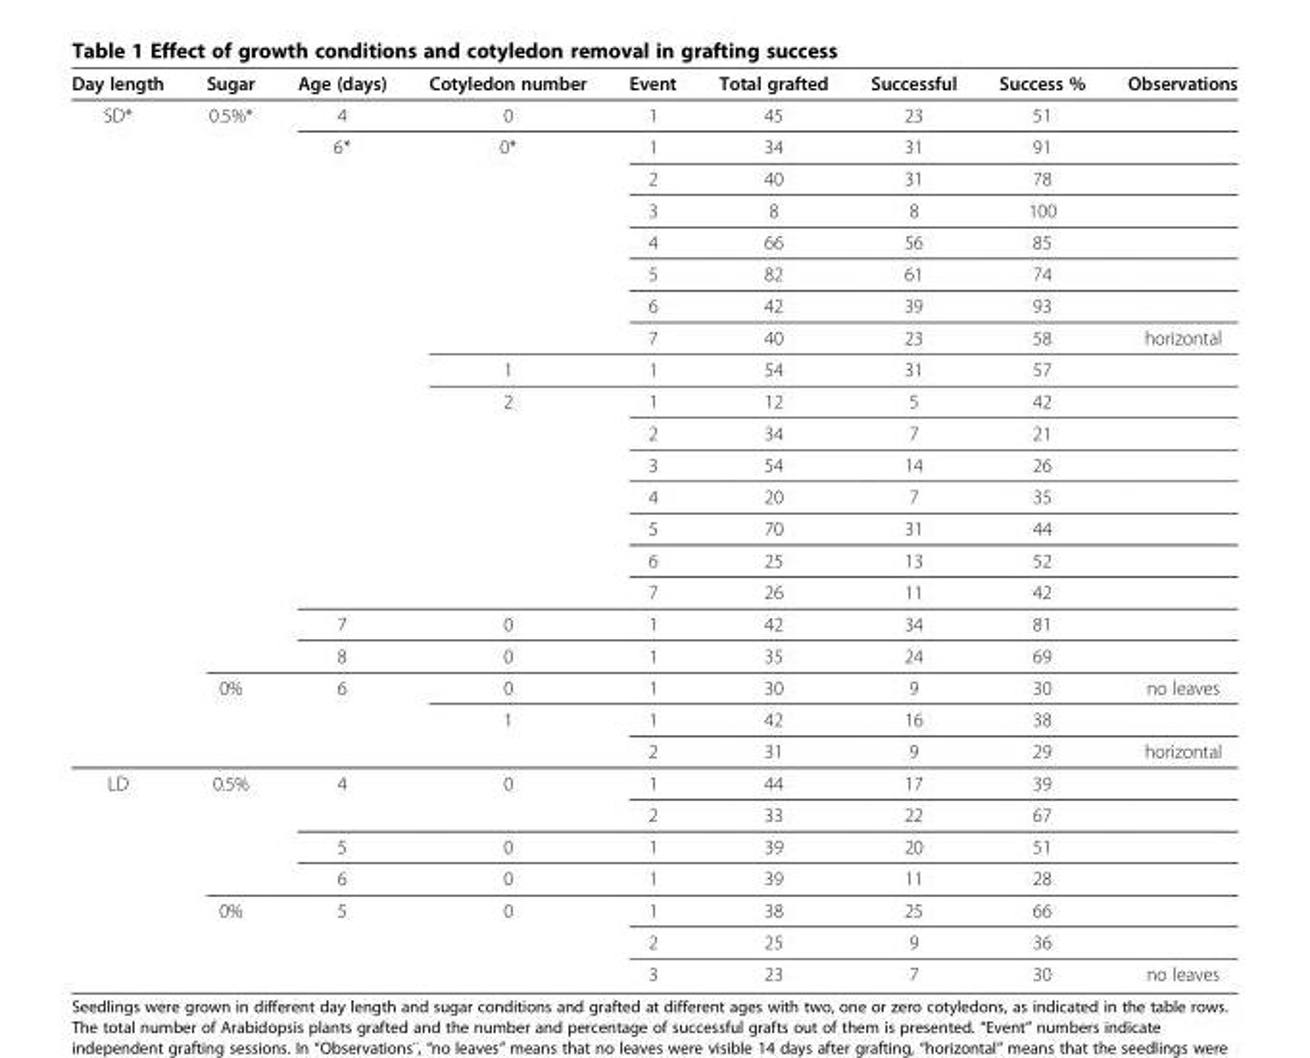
<table><thead><tr><td>Day length</td><td>Sugar</td><td>Age (days)</td><td>Cotyledon number</td><td>Event</td><td>Total grafted</td><td>Successful</td><td>Success %</td><td>Observations</td></tr></thead><tbody><tr><td rowspan="21">SD*</td><td rowspan="18">0.5%*</td><td>4</td><td>0</td><td>1</td><td>45</td><td>23</td><td>51</td><td></td></tr><tr><td rowspan="15">6*</td><td rowspan="7">0*</td><td>1</td><td>34</td><td>31</td><td>91</td><td></td></tr><tr><td>2</td><td>40</td><td>31</td><td>78</td><td></td></tr><tr><td>3</td><td>8</td><td>8</td><td>100</td><td></td></tr><tr><td>4</td><td>66</td><td>56</td><td>85</td><td></td></tr><tr><td>5</td><td>82</td><td>61</td><td>74</td><td></td></tr><tr><td>6</td><td>42</td><td>39</td><td>93</td><td></td></tr><tr><td>7</td><td>40</td><td>23</td><td>58</td><td>horizontal</td></tr><tr><td>1</td><td>1</td><td>54</td><td>31</td><td>57</td><td></td></tr><tr><td rowspan="7">2</td><td>1</td><td>12</td><td>5</td><td>42</td><td></td></tr><tr><td>2</td><td>34</td><td>7</td><td>21</td><td></td></tr><tr><td>3</td><td>54</td><td>14</td><td>26</td><td></td></tr><tr><td>4</td><td>20</td><td>7</td><td>35</td><td></td></tr><tr><td>5</td><td>70</td><td>31</td><td>44</td><td></td></tr><tr><td>6</td><td>25</td><td>13</td><td>52</td><td></td></tr><tr><td>7</td><td>26</td><td>11</td><td>42</td><td></td></tr><tr><td>7</td><td>0</td><td>1</td><td>42</td><td>34</td><td>81</td><td></td></tr><tr><td>8</td><td>0</td><td>1</td><td>35</td><td>24</td><td>69</td><td></td></tr><tr><td rowspan="3">0%</td><td rowspan="3">6</td><td>0</td><td>1</td><td>30</td><td>9</td><td>30</td><td>no leaves</td></tr><tr><td rowspan="2">1</td><td>1</td><td>42</td><td>16</td><td>38</td><td></td></tr><tr><td>2</td><td>31</td><td>9</td><td>29</td><td>horizontal</td></tr><tr><td rowspan="7">LD</td><td rowspan="4">0.5%</td><td rowspan="2">4</td><td rowspan="2">0</td><td>1</td><td>44</td><td>17</td><td>39</td><td></td></tr><tr><td>2</td><td>33</td><td>22</td><td>67</td><td></td></tr><tr><td>5</td><td>0</td><td>1</td><td>39</td><td>20</td><td>51</td><td></td></tr><tr><td>6</td><td>0</td><td>1</td><td>39</td><td>11</td><td>28</td><td></td></tr><tr><td rowspan="3">0%</td><td rowspan="3">5</td><td rowspan="3">0</td><td>1</td><td>38</td><td>25</td><td>66</td><td></td></tr><tr><td>2</td><td>25</td><td>9</td><td>36</td><td></td></tr><tr><td>3</td><td>23</td><td>7</td><td>30</td><td>no leaves</td></tr></tbody></table>